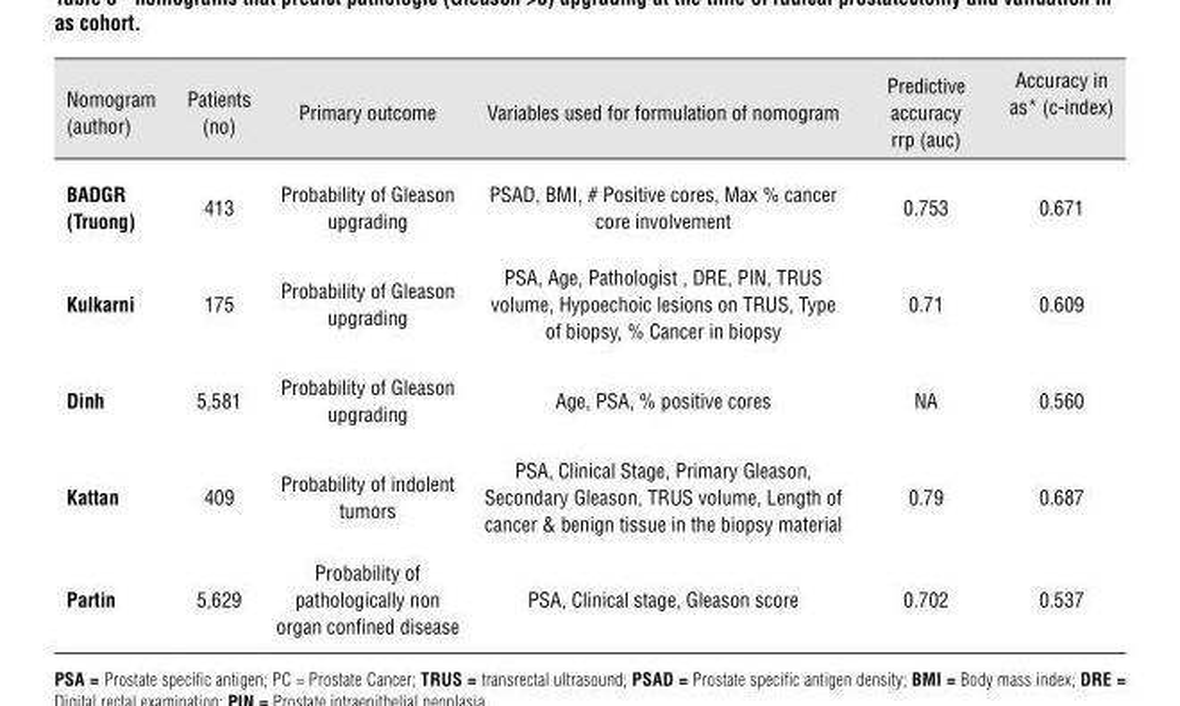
<table><thead><tr><td>Nomogram (author)</td><td>Patients (no)</td><td>Primary outcome</td><td>Variables used for formulation of nomogram</td><td>Predictive accuracy rrp (auc)</td><td>Accuracy in as* (c-index)</td></tr></thead><tbody><tr><td>BADGR (Truong)</td><td>413</td><td>Probability of Gleason upgrading</td><td>PSAD, BMI, # Positive cores, Max % cancer core involvement</td><td>0.753</td><td>0.671</td></tr><tr><td>Kulkarni</td><td>175</td><td>Probability of Gleason upgrading</td><td>PSA, Age, Pathologist , DRE, PIN, TRUS volume, Hypoechoic lesions on TRUS, Type of biopsy, % Cancer in biopsy</td><td>0.71</td><td>0.609</td></tr><tr><td>Dinh</td><td>5,581</td><td>Probability of Gleason upgrading</td><td>Age, PSA, % positive cores</td><td>NA</td><td>0.560</td></tr><tr><td>Kattan</td><td>409</td><td>Probability of indolent tumors</td><td>PSA, Clinical Stage, Primary Gleason, Secondary Gleason, TRUS volume, Length of cancer &amp; benign tissue in the biopsy material</td><td>0.79</td><td>0.687</td></tr><tr><td>partin</td><td>5,629</td><td>Probability of pathologically non organ confined disease</td><td>PSA, Clinical stage, Gleason score</td><td>0.702</td><td>0.537</td></tr></tbody></table>